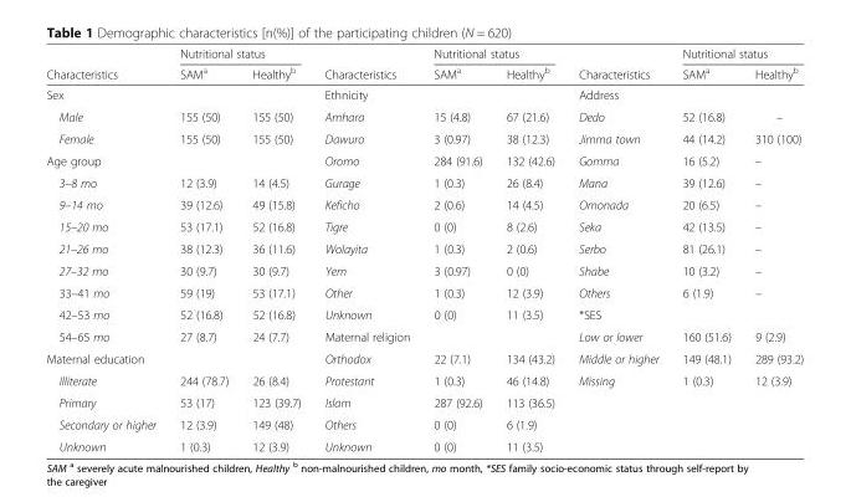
<table><thead><tr><td rowspan="2">Characteristics</td><td colspan="2">Nutritional status</td><td rowspan="2">Characteristics</td><td colspan="2">Nutritional status</td><td rowspan="2">Characteristics</td><td colspan="2">Nutritional status</td></tr><tr><td>SAM<sup>a</sup></td><td>Healthy<sup>b</sup></td><td>SAM<sup>a</sup></td><td>Healthy<sup>b</sup></td><td>SAM<sup>a</sup></td><td>Healthy<sup>b</sup></td></tr></thead><tbody><tr><td>Sex</td><td></td><td></td><td>Ethnicity</td><td></td><td></td><td>Address</td><td></td><td></td></tr><tr><td>Male</td><td>155 (50)</td><td>155 (50)</td><td>Amhara</td><td>15 (4.8)</td><td>67 (21.6)</td><td>Dedo</td><td>52 (16.8)</td><td>–</td></tr><tr><td>Female</td><td>155 (50)</td><td>155 (50)</td><td>Dawuro</td><td>3 (0.97)</td><td>38 (12.3)</td><td>Jimma town</td><td>44 (14.2)</td><td>310 (100)</td></tr><tr><td>Age group</td><td></td><td></td><td>Oromo</td><td>284 (91.6)</td><td>132 (42.6)</td><td>Gomma</td><td>16 (5.2)</td><td>–</td></tr><tr><td>3–8 mo</td><td>12 (3.9)</td><td>14 (4.5)</td><td>Gurage</td><td>1 (0.3)</td><td>26 (8.4)</td><td>Mana</td><td>39 (12.6)</td><td>–</td></tr><tr><td>9–14 mo</td><td>39 (12.6)</td><td>49 (15.8)</td><td>Keficho</td><td>2 (0.6)</td><td>14 (4.5)</td><td>Omonada</td><td>20 (6.5)</td><td>–</td></tr><tr><td>15–20 mo</td><td>53 (17.1)</td><td>52 (16.8)</td><td>Tigre</td><td>0 (0)</td><td>8 (2.6)</td><td>Seka</td><td>42 (13.5)</td><td>–</td></tr><tr><td>21–26 mo</td><td>38 (12.3)</td><td>36 (11.6)</td><td>Wolayita</td><td>1 (0.3)</td><td>2 (0.6)</td><td>Serbo</td><td>81 (26.1)</td><td>–</td></tr><tr><td>27–32 mo</td><td>30 (9.7)</td><td>30 (9.7)</td><td>Yem</td><td>3 (0.97)</td><td>0 (0)</td><td>Shabe</td><td>10 (3.2)</td><td>–</td></tr><tr><td>33–41 mo</td><td>59 (19)</td><td>53 (17.1)</td><td>Other</td><td>1 (0.3)</td><td>12 (3.9)</td><td>Others</td><td>6 (1.9)</td><td>–</td></tr><tr><td>42–53 mo</td><td>52 (16.8)</td><td>52 (16.8)</td><td>Unknown</td><td>0 (0)</td><td>11 (3.5)</td><td>*SES</td><td></td><td></td></tr><tr><td>54–65 mo</td><td>27 (8.7)</td><td>24 (7.7)</td><td>Maternal religion</td><td></td><td></td><td>Low or lower</td><td>160 (51.6)</td><td>9 (2.9)</td></tr><tr><td>Maternal education</td><td></td><td></td><td>Orthodox</td><td>22 (7.1)</td><td>134 (43.2)</td><td>Middle or higher</td><td>149 (48.1)</td><td>289 (93.2)</td></tr><tr><td>Illiterate</td><td>244 (78.7)</td><td>26 (8.4)</td><td>Protestant</td><td>1 (0.3)</td><td>46 (14.8)</td><td>Missing</td><td>1 (0.3)</td><td>12 (3.9)</td></tr><tr><td>Primary</td><td>53 (17)</td><td>123 (39.7)</td><td>Islam</td><td>287 (92.6)</td><td>113 (36.5)</td><td></td><td></td><td></td></tr><tr><td>Secondary or higher</td><td>12 (3.9)</td><td>149 (48)</td><td>Others</td><td>0 (0)</td><td>6 (1.9)</td><td></td><td></td><td></td></tr><tr><td>Unknown</td><td>1 (0.3)</td><td>12 (3.9)</td><td>Unknown</td><td>0 (0)</td><td>11 (3.5)</td><td></td><td></td><td></td></tr></tbody></table>